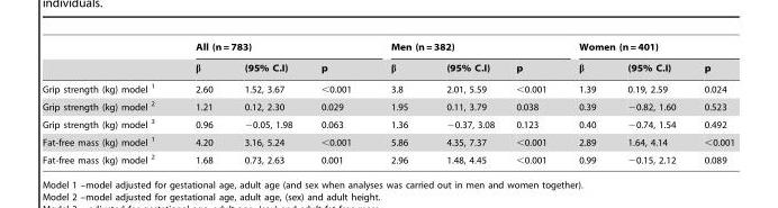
<table><thead><tr><td rowspan="2"></td><td colspan="3">All (n = 783)</td><td colspan="3">Men (n = 382)</td><td colspan="3">Women (n = 401)</td></tr><tr><td>β</td><td>(95% C.I)</td><td>p</td><td>β</td><td>(95% C.I)</td><td>p</td><td>β</td><td>(95% C.I)</td><td>p</td></tr></thead><tbody><tr><td>Grip strength (kg) model 1</td><td>2.60</td><td>1.52, 3.67</td><td>&lt;0.001</td><td>3.8</td><td>2.01, 5.59</td><td>&lt;0.001</td><td>1.39</td><td>0.19, 2.59</td><td>0.024</td></tr><tr><td>Grip strength (kg) model 2</td><td>1.21</td><td>0.12, 2.30</td><td>0.029</td><td>1.95</td><td>0.11, 3.79</td><td>0.038</td><td>0.39</td><td>−0.82, 1.60</td><td>0.523</td></tr><tr><td>Grip strength (kg) model 3</td><td>0.96</td><td>−0.05, 1.98</td><td>0.063</td><td>1.36</td><td>−0.37, 3.08</td><td>0.123</td><td>0.40</td><td>−0.74, 1.54</td><td>0.492</td></tr><tr><td>Fat-free mass (kg) model 1</td><td>4.20</td><td>3.16, 5.24</td><td>&lt;0.001</td><td>5.86</td><td>4.35, 7.37</td><td>&lt;0.001</td><td>2.89</td><td>1.64, 4.14</td><td>&lt;0.001</td></tr><tr><td>Fat-free mass (kg) model 2</td><td>1.68</td><td>0.73, 2.63</td><td>0.001</td><td>2.96</td><td>1.48, 4.45</td><td>&lt;0.001</td><td>0.99</td><td>−0.15, 2.12</td><td>0.089</td></tr></tbody></table>